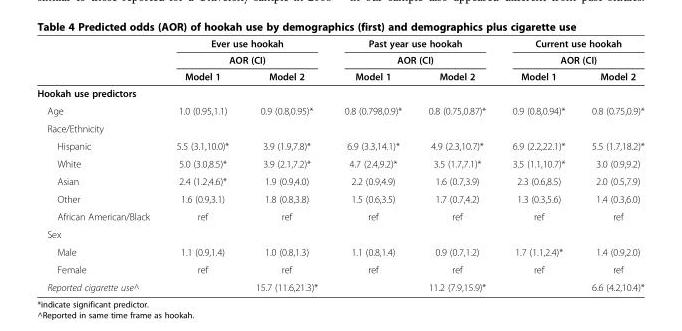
<table><thead><tr><td rowspan="3"></td><td rowspan="2" colspan="2">Ever use hookah AOR (CI)</td><td rowspan="2" colspan="2">Past year use hookah AOR (CI)</td><td rowspan="2" colspan="2">Current use hookah AOR (CI)</td></tr><tr></tr><tr><td>Model 1</td><td>Model 2</td><td>Model 1</td><td>Model 2</td><td>Model 1</td><td>Model 2</td></tr></thead><tbody><tr><td colspan="7">Hookah use predictors</td></tr><tr><td>Age</td><td>1.0 (0.95,1.1)</td><td>0.9 (0.8,0.95)*</td><td>0.8 (0.798,0.9)*</td><td>0.8 (0.75,0.87)*</td><td>0.9 (0.8,0.94)*</td><td>0.8 (0.75,0.9)*</td></tr><tr><td colspan="7">Race/Ethnicity</td></tr><tr><td>Hispanic</td><td>5.5 (3.1,10.0)*</td><td>3.9 (1.9,7.8)*</td><td>6.9 (3.3,14.1)*</td><td>4.9 (2.3,10.7)*</td><td>6.9 (2.2,22.1)*</td><td>5.5 (1.7,18.2)*</td></tr><tr><td>White</td><td>5.0 (3.0,8.5)*</td><td>3.9 (2.1,7.2)*</td><td>4.7 (2.4,9.2)*</td><td>3.5 (1.7,7.1)*</td><td>3.5 (1.1,10.7)*</td><td>3.0 (0.9,9.2)</td></tr><tr><td>Asian</td><td>2.4 (1.2,4.6)*</td><td>1.9 (0.9,4.0)</td><td>2.2 (0.9,4.9)</td><td>1.6 (0.7,3.9)</td><td>2.3 (0.6,8.5)</td><td>2.0 (0.5,7.9)</td></tr><tr><td>Other</td><td>1.6 (0.9,3.1)</td><td>1.8 (0.8,3.8)</td><td>1.5 (0.6,3.5)</td><td>1.7 (0.7,4.2)</td><td>1.3 (0.3,5.6)</td><td>1.4 (0.3,6.0)</td></tr><tr><td>African American/Black</td><td>ref</td><td>ref</td><td>ref</td><td>ref</td><td>ref</td><td>ref</td></tr><tr><td colspan="7">Sex</td></tr><tr><td>Male</td><td>1.1 (0.9,1.4)</td><td>1.0 (0.8,1.3)</td><td>1.1 (0.8,1.4)</td><td>0.9 (0.7,1.2)</td><td>1.7 (1.1,2.4)*</td><td>1.4 (0.9,2.0)</td></tr><tr><td>Female</td><td>ref</td><td>ref</td><td>ref</td><td>ref</td><td>ref</td><td>ref</td></tr><tr><td>Reported cigarette use^</td><td></td><td>15.7 (11.6,21.3)*</td><td></td><td>11.2 (7.9,15.9)*</td><td></td><td>6.6 (4.2,10.4)*</td></tr></tbody></table>